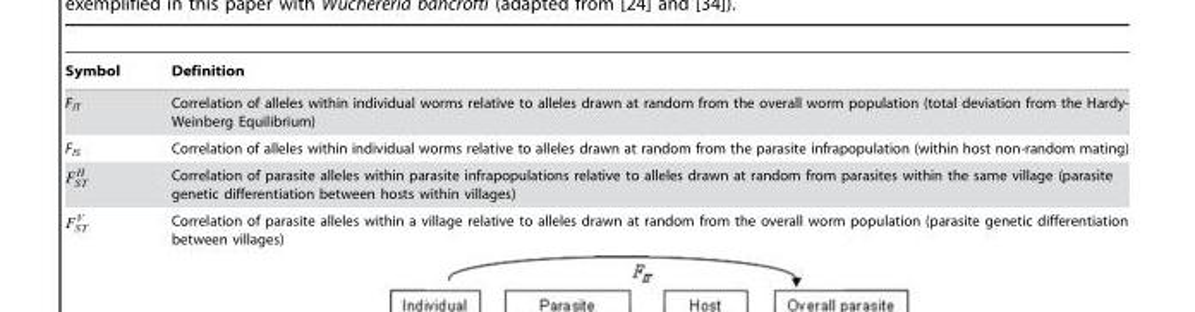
<table><thead><tr><td>Symbol</td><td>Definition</td></tr></thead><tbody><tr><td>F<sub>IT</sub></td><td>Correlation of alleles within individual worms relative to alleles drawn at random from the overall worm population (total deviation from the Hardy- Weinberg Equilibrium)</td></tr><tr><td rowspan="3">FIS FH ST FV ST</td><td>Correlation of alleles within individual worms relative to alleles drawn at random from the parasite infrapopulation (within host non-random mating)</td></tr><tr><td>Correlation of parasite alleles within parasite infrapopulations relative to alleles drawn at random from parasites within the same village (parasite genetic differentiation between hosts within villages)</td></tr><tr><td>Correlation of parasite alleles within a village relative to alleles drawn at random from the overall worm population (parasite genetic differentiation between villages)</td></tr></tbody></table>